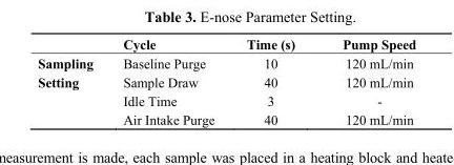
<table><thead><tr><td></td><td>Cycle</td><td>Time (s)</td><td>Pump Speed</td></tr></thead><tbody><tr><td>Sampling</td><td>Baseline Purge</td><td>10</td><td>120 mL/min</td></tr><tr><td rowspan="3">Setting</td><td>Sample Draw</td><td>40</td><td>120 mL/min</td></tr><tr><td>Idle Time</td><td>3</td><td>-</td></tr><tr><td>Air Intake Purge</td><td>40</td><td>120 mL/min</td></tr></tbody></table>